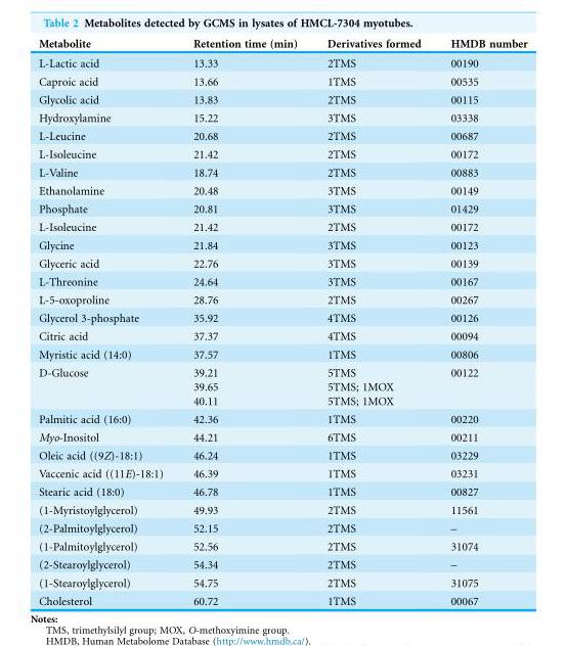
<table><thead><tr><td>Metabolite</td><td>Retention time (min)</td><td>Derivatives formed</td><td>HMDB number</td></tr></thead><tbody><tr><td>L-Lactic acid</td><td>13.33</td><td>2TMS</td><td>00190</td></tr><tr><td>Caproic acid</td><td>13.66</td><td>1TMS</td><td>00535</td></tr><tr><td>Glycolic acid</td><td>13.83</td><td>2TMS</td><td>00115</td></tr><tr><td>Hydroxylamine</td><td>15.22</td><td>3TMS</td><td>03338</td></tr><tr><td>L-Leucine</td><td>20.68</td><td>2TMS</td><td>00687</td></tr><tr><td>L-Isoleucine</td><td>21.42</td><td>2TMS</td><td>00172</td></tr><tr><td>L-Valine</td><td>18.74</td><td>2TMS</td><td>00883</td></tr><tr><td>Ethanolamine</td><td>20.48</td><td>3TMS</td><td>00149</td></tr><tr><td>Phosphate</td><td>20.81</td><td>3TMS</td><td>01429</td></tr><tr><td>L-Isoleucine</td><td>21.42</td><td>2TMS</td><td>00172</td></tr><tr><td>Glycine</td><td>21.84</td><td>3TMS</td><td>00123</td></tr><tr><td>Glyceric acid</td><td>22.76</td><td>3TMS</td><td>00139</td></tr><tr><td>L-Threonine</td><td>24.64</td><td>3TMS</td><td>00167</td></tr><tr><td>L-5-oxoproline</td><td>28.76</td><td>2TMS</td><td>00267</td></tr><tr><td>Glycerol 3-phosphate</td><td>35.92</td><td>4TMS</td><td>00126</td></tr><tr><td>Citric acid</td><td>37.37</td><td>4TMS</td><td>00094</td></tr><tr><td>Myristic acid (14:0)</td><td>37.57</td><td>1TMS</td><td>00806</td></tr><tr><td>D-Glucose</td><td>39.21 39.65 40.11</td><td>5TMS 5TMS; 1MOX 5TMS; 1MOX</td><td>00122</td></tr><tr><td>Palmitic acid (16:0)</td><td>42.36</td><td>1TMS</td><td>00220</td></tr><tr><td>Myo-Inositol</td><td>44.21</td><td>6TMS</td><td>00211</td></tr><tr><td>Oleic acid ((9Z)-18:1)</td><td>46.24</td><td>1TMS</td><td>03229</td></tr><tr><td>Vaccenic acid ((11E)-18:1)</td><td>46.39</td><td>1TMS</td><td>03231</td></tr><tr><td>Stearic acid (18:0)</td><td>46.78</td><td>1TMS</td><td>00827</td></tr><tr><td>(1-Myristoylglycerol)</td><td>49.93</td><td>2TMS</td><td>11561</td></tr><tr><td>(2-Palmitoylglycerol)</td><td>52.15</td><td>2TMS</td><td>–</td></tr><tr><td>(1-Palmitoylglycerol)</td><td>52.56</td><td>2TMS</td><td>31074</td></tr><tr><td>(2-Stearoylglycerol)</td><td>54.34</td><td>2TMS</td><td>–</td></tr><tr><td>(1-Stearoylglycerol)</td><td>54.75</td><td>2TMS</td><td>31075</td></tr><tr><td>Cholesterol</td><td>60.72</td><td>1TMS</td><td>00067</td></tr></tbody></table>